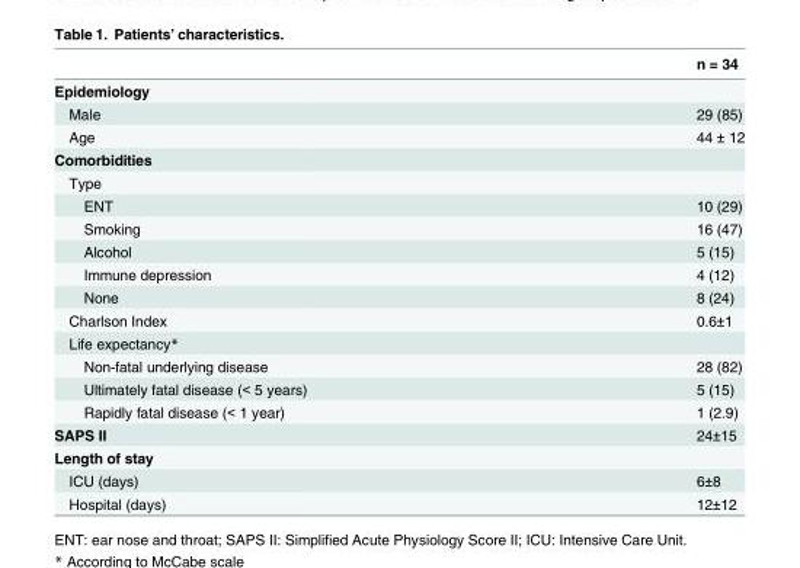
<table><thead><tr><td></td><td>n = 34</td></tr></thead><tbody><tr><td colspan="2">Epidemiology</td></tr><tr><td>Male</td><td>29 (85)</td></tr><tr><td>Age</td><td>44 ± 12</td></tr><tr><td colspan="2">Comorbidities</td></tr><tr><td colspan="2">Type</td></tr><tr><td>ENT</td><td>10 (29)</td></tr><tr><td>Smoking</td><td>16 (47)</td></tr><tr><td>Alcohol</td><td>5 (15)</td></tr><tr><td>Immune depression</td><td>4 (12)</td></tr><tr><td>None</td><td>8 (24)</td></tr><tr><td>Charlson Index</td><td>0.6±1</td></tr><tr><td colspan="2">Life expectancy*</td></tr><tr><td>Non-fatal underlying disease</td><td>28 (82)</td></tr><tr><td>Ultimately fatal disease (&lt; 5 years)</td><td>5 (15)</td></tr><tr><td>Rapidly fatal disease (&lt; 1 year)</td><td>1 (2.9)</td></tr><tr><td>SAPS II</td><td>24±15</td></tr><tr><td colspan="2">Length of stay</td></tr><tr><td>ICU (days)</td><td>6±8</td></tr><tr><td>Hospital (days)</td><td>12±12</td></tr></tbody></table>